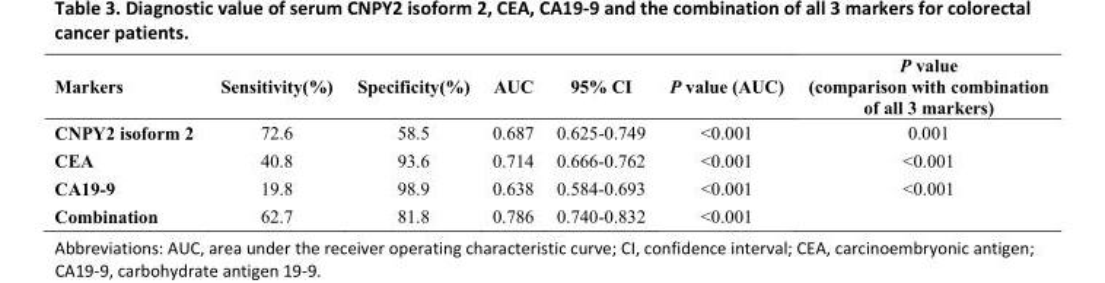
<table><tbody><tr><td>Markers</td><td>Sensitivity(%)</td><td>Specificity(%)</td><td>AUC</td><td>95% CI</td><td>P value (AUC)</td><td>P value (comparison with combination of all 3 markers)</td></tr><tr><td>CNPY2 isoform 2</td><td>72.6</td><td>58.5</td><td>0.687</td><td>0.625-0.749</td><td>&lt;0.001</td><td>0.001</td></tr><tr><td>CEA</td><td>40.8</td><td>93.6</td><td>0.714</td><td>0.666-0.762</td><td>&lt;0.001</td><td>&lt;0.001</td></tr><tr><td>CA19-9</td><td>19.8</td><td>98.9</td><td>0.638</td><td>0.584-0.693</td><td>&lt;0.001</td><td>&lt;0.001</td></tr><tr><td>Combination</td><td>62.7</td><td>81.8</td><td>0.786</td><td>0.740-0.832</td><td>&lt;0.001</td><td></td></tr></tbody></table>